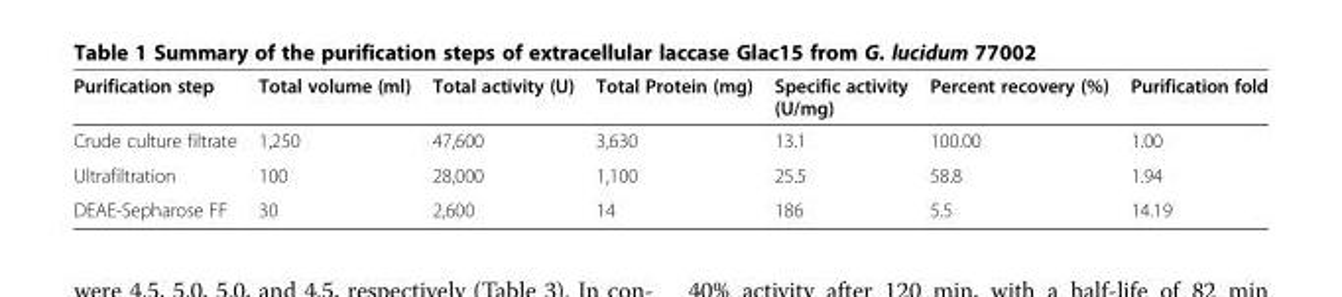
<table><thead><tr><td>Purification step</td><td>Total volume (ml)</td><td>Total activity (U)</td><td>Total Protein (mg)</td><td>Specific activity (U/mg)</td><td>Percent recovery (%)</td><td>Purification fold</td></tr></thead><tbody><tr><td>Crude culture filtrate</td><td>1,250</td><td>47,600</td><td>3,630</td><td>13.1</td><td>100.00</td><td>1.00</td></tr><tr><td>Ultrafiltration</td><td>100</td><td>28,000</td><td>1,100</td><td>25.5</td><td>58.8</td><td>1.94</td></tr><tr><td>DEAE-Sepharose FF</td><td>30</td><td>2,600</td><td>14</td><td>186</td><td>5.5</td><td>14.19</td></tr></tbody></table>